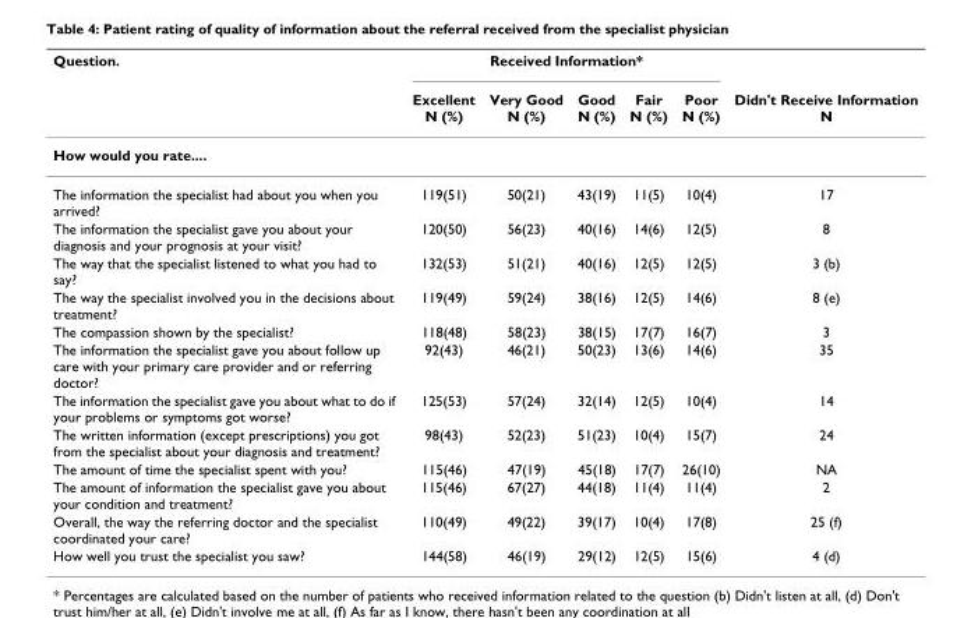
<table><thead><tr><td rowspan="2">Question.</td><td colspan="5">Received Information*</td><td rowspan="2">Didn&#x27;t Receive Information N</td></tr><tr><td>Excellent N (%)</td><td>Very Good N (%)</td><td>Good N (%)</td><td>Fair N (%)</td><td>Poor N (%)</td></tr></thead><tbody><tr><td colspan="7">How would you rate....</td></tr><tr><td>The information the specialist had about you when you arrived?</td><td>119(51)</td><td>50(21)</td><td>43(19)</td><td>11(5)</td><td>10(4)</td><td>17</td></tr><tr><td>The information the specialist gave you about your diagnosis and your prognosis at your visit?</td><td>120(50)</td><td>56(23)</td><td>40(16)</td><td>14(6)</td><td>12(5)</td><td>8</td></tr><tr><td>The way that the specialist listened to what you had to say?</td><td>132(53)</td><td>51(21)</td><td>40(16)</td><td>12(5)</td><td>12(5)</td><td>3 (b)</td></tr><tr><td>The way the specialist involved you in the decisions about treatment?</td><td>119(49)</td><td>59(24)</td><td>38(16)</td><td>12(5)</td><td>14(6)</td><td>8 (e)</td></tr><tr><td>The compassion shown by the specialist?</td><td>118(48)</td><td>58(23)</td><td>38(15)</td><td>17(7)</td><td>16(7)</td><td>3</td></tr><tr><td>The information the specialist gave you about follow up care with your primary care provider and or referring doctor?</td><td>92(43)</td><td>46(21)</td><td>50(23)</td><td>13(6)</td><td>14(6)</td><td>35</td></tr><tr><td>The information the specialist gave you about what to do if your problems or symptoms got worse?</td><td>125(53)</td><td>57(24)</td><td>32(14)</td><td>12(5)</td><td>10(4)</td><td>14</td></tr><tr><td>The written information (except prescriptions) you got from the specialist about your diagnosis and treatment?</td><td>98(43)</td><td>52(23)</td><td>51(23)</td><td>10(4)</td><td>15(7)</td><td>24</td></tr><tr><td>The amount of time the specialist spent with you?</td><td>115(46)</td><td>47(19)</td><td>45(18)</td><td>17(7)</td><td>26(10)</td><td>NA</td></tr><tr><td>The amount of information the specialist gave you about your condition and treatment?</td><td>115(46)</td><td>67(27)</td><td>44(18)</td><td>11(4)</td><td>11(4)</td><td>2</td></tr><tr><td>Overall, the way the referring doctor and the specialist coordinated your care?</td><td>110(49)</td><td>49(22)</td><td>39(17)</td><td>10(4)</td><td>17(8)</td><td>25 (f)</td></tr><tr><td>How well you trust the specialist you saw?</td><td>144(58)</td><td>46(19)</td><td>29(12)</td><td>12(5)</td><td>15(6)</td><td>4 (d)</td></tr></tbody></table>